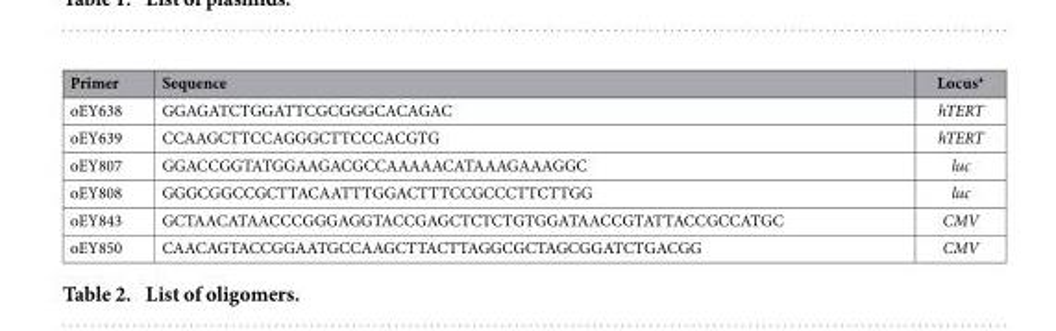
<table><thead><tr><td>Primer</td><td>Sequence</td><td>Locus*</td></tr></thead><tbody><tr><td>oEY638</td><td>GGAGATCTGGATTCGCGGGCACAGAC</td><td>hTERT</td></tr><tr><td>oEY639</td><td>CCAAGCTTCCAGGGCTTCCCACGTG</td><td>hTERT</td></tr><tr><td>oEY807</td><td>GGACCGGTATGGAAGACGCCAAAAACATAAAGAAAGGC</td><td>luc</td></tr><tr><td>oEY808</td><td>GGGCGGCCGCTTACAATTTGGACTTTCCGCCCTTCTTGG</td><td>luc</td></tr><tr><td>oEY843</td><td>GCTAACATAACCCGGGAGGTACCGAGCTCTCTGTGGATAACCGTATTACCGCCATGC</td><td>CMV</td></tr><tr><td>oEY850</td><td>CAACAGTACCGGAATGCCAAGCTTACTTAGGCGCTAGCGGATCTGACGG</td><td>CMV</td></tr></tbody></table>